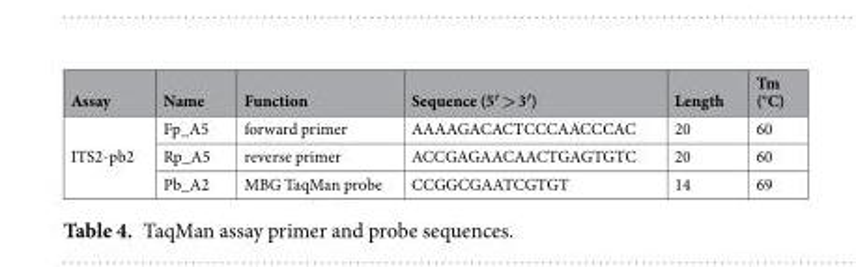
<table><thead><tr><td>Assay</td><td>Name</td><td>Function</td><td>Sequence (5′ &gt; 3′)</td><td>Length</td><td>Tm (°C)</td></tr></thead><tbody><tr><td rowspan="3">ITS2-pb2</td><td>Fp_A5</td><td>forward primer</td><td>AAAAGACACTCCCAACCCAC</td><td>20</td><td>60</td></tr><tr><td>Rp_A5</td><td>reverse primer</td><td>ACCGAGAACAACTGAGTGTC</td><td>20</td><td>60</td></tr><tr><td>Pb_A2</td><td>MBG TaqMan probe</td><td>CCGGCGAATCGTGT</td><td>14</td><td>69</td></tr></tbody></table>